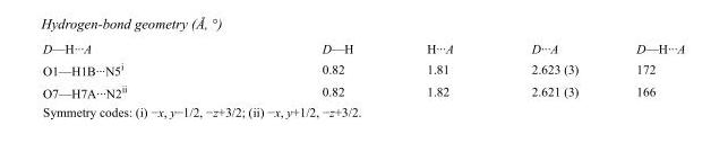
<table><tbody><tr><td>D—H···A</td><td>D—H</td><td>H···A</td><td>D···A</td><td>D—H···A</td></tr><tr><td>O1—H1B···N5<sup>i</sup></td><td>0.82</td><td>1.81</td><td>2.623 (3)</td><td>172</td></tr><tr><td>O7—H7A···N2<sup>ii</sup></td><td>0.82</td><td>1.82</td><td>2.621 (3)</td><td>166</td></tr></tbody></table>